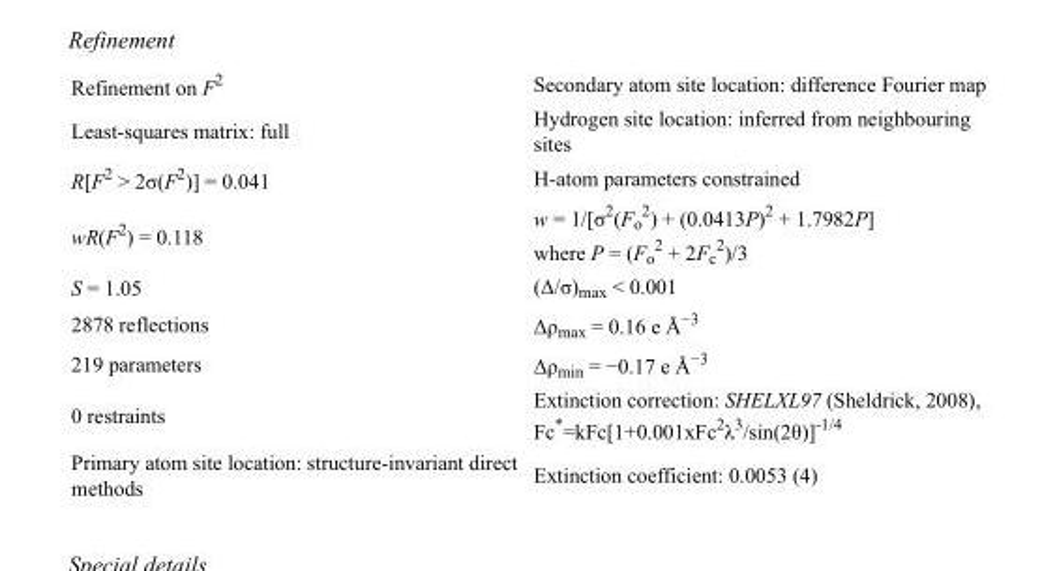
<table><tbody><tr><td>Refinement on F<sup>2</sup></td><td>Secondary atom site location: difference Fourier map</td></tr><tr><td>Least-squares matrix: full</td><td>Hydrogen site location: inferred from neighbouring sites</td></tr><tr><td>R[F<sup>2</sup> &gt; 2σ(F<sup>2</sup>)] = 0.041</td><td>H-atom parameters constrained</td></tr><tr><td>wR(F<sup>2</sup>) = 0.118</td><td>w = 1/[σ<sup>2</sup>(F<sub>o</sub> <sup>2</sup>) + (0.0413P)<sup>2</sup> + 1.7982P] where P = (F<sub>o</sub> <sup>2</sup> + 2F<sub>c</sub> <sup>2</sup>)/3</td></tr><tr><td>S = 1.05</td><td>(Δ/σ)<sub>max</sub> &lt; 0.001</td></tr><tr><td>2878 reflections</td><td>Δρ<sub>max</sub> = 0.16 e Å<sup>−3</sup></td></tr><tr><td>219 parameters</td><td>Δρ<sub>min</sub> = −0.17 e Å<sup>−3</sup></td></tr><tr><td>0 restraints</td><td>Extinction correction: SHELXL97 (Sheldrick, 2008), Fc*=kFc[1+0.001xFc<sup>2</sup>λ<sup>3</sup>/sin(2θ)]<sup>-1/4</sup></td></tr><tr><td>Primary atom site location: structure-invariant direct methods</td><td>Extinction coefficient: 0.0053 (4)</td></tr></tbody></table>